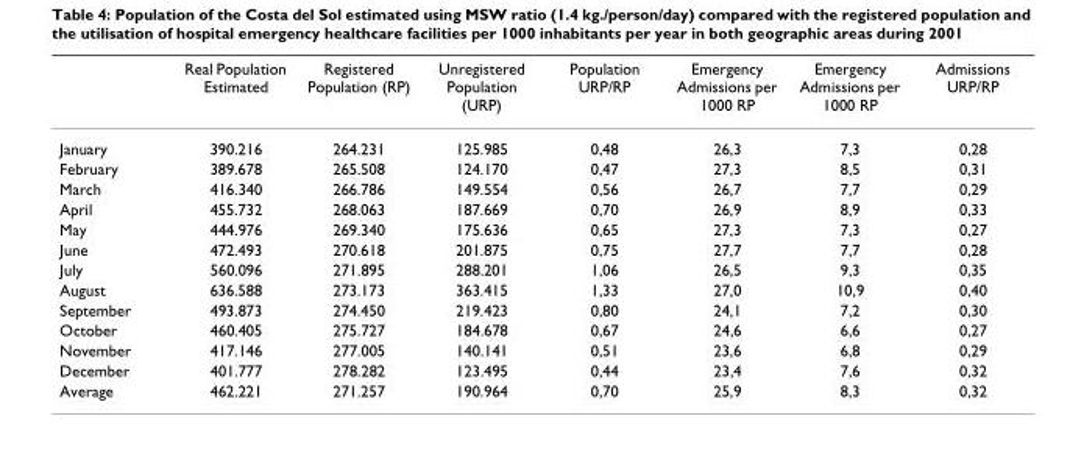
<table><thead><tr><td></td><td>Real Population Estimated</td><td>Registered Population (RP)</td><td>Unregistered Population (URP)</td><td>Population URP/RP</td><td>Emergency Admissions per 1000 RP</td><td>Emergency Admissions per 1000 RP</td><td>Admissions URP/RP</td></tr></thead><tbody><tr><td>January</td><td>390.216</td><td>264.231</td><td>125.985</td><td>0,48</td><td>26,3</td><td>7,3</td><td>0,28</td></tr><tr><td>February</td><td>389.678</td><td>265.508</td><td>124.170</td><td>0,47</td><td>27,3</td><td>8,5</td><td>0,31</td></tr><tr><td>March</td><td>416.340</td><td>266.786</td><td>149.554</td><td>0,56</td><td>26,7</td><td>7,7</td><td>0,29</td></tr><tr><td>April</td><td>455.732</td><td>268.063</td><td>187.669</td><td>0,70</td><td>26,9</td><td>8,9</td><td>0,33</td></tr><tr><td>May</td><td>444.976</td><td>269.340</td><td>175.636</td><td>0,65</td><td>27,3</td><td>7,3</td><td>0,27</td></tr><tr><td>June</td><td>472.493</td><td>270.618</td><td>201.875</td><td>0,75</td><td>27,7</td><td>7,7</td><td>0,28</td></tr><tr><td>July</td><td>560.096</td><td>271.895</td><td>288.201</td><td>1,06</td><td>26,5</td><td>9,3</td><td>0,35</td></tr><tr><td>August</td><td>636.588</td><td>273.173</td><td>363.415</td><td>1,33</td><td>27,0</td><td>10,9</td><td>0,40</td></tr><tr><td>September</td><td>493.873</td><td>274.450</td><td>219.423</td><td>0,80</td><td>24,1</td><td>7,2</td><td>0,30</td></tr><tr><td>October</td><td>460.405</td><td>275.727</td><td>184.678</td><td>0,67</td><td>24,6</td><td>6,6</td><td>0,27</td></tr><tr><td>November</td><td>417.146</td><td>277.005</td><td>140.141</td><td>0,51</td><td>23,6</td><td>6,8</td><td>0,29</td></tr><tr><td>December</td><td>401.777</td><td>278.282</td><td>123.495</td><td>0,44</td><td>23,4</td><td>7,6</td><td>0,32</td></tr><tr><td>Average</td><td>462.221</td><td>271.257</td><td>190.964</td><td>0,70</td><td>25,9</td><td>8,3</td><td>0,32</td></tr></tbody></table>